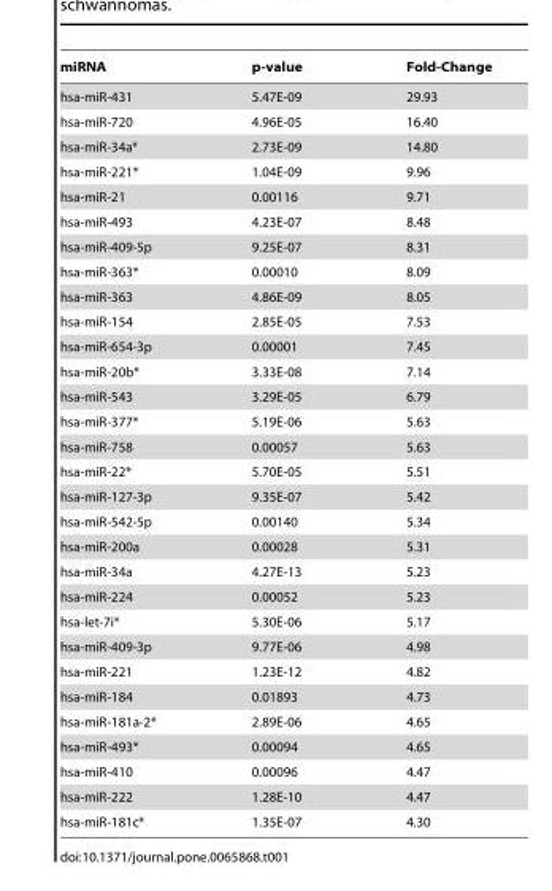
<table><thead><tr><td>miRNA</td><td>p-value</td><td>Fold-Change</td></tr></thead><tbody><tr><td>hsa-miR-431</td><td>5.47E-09</td><td>29.93</td></tr><tr><td>hsa-miR-720</td><td>4.96E-05</td><td>16.40</td></tr><tr><td>hsa-miR-34a*</td><td>2.73E-09</td><td>14.80</td></tr><tr><td>hsa-miR-221*</td><td>1.04E-09</td><td>9.96</td></tr><tr><td>hsa-miR-21</td><td>0.00116</td><td>9.71</td></tr><tr><td>hsa-miR-493</td><td>4.23E-07</td><td>8.48</td></tr><tr><td>hsa-miR-409-5p</td><td>9.25E-07</td><td>8.31</td></tr><tr><td>hsa-miR-363*</td><td>0.00010</td><td>8.09</td></tr><tr><td>hsa-miR-363</td><td>4.86E-09</td><td>8.05</td></tr><tr><td>hsa-miR-154</td><td>2.85E-05</td><td>7.53</td></tr><tr><td>hsa-miR-654-3p</td><td>0.00001</td><td>7.45</td></tr><tr><td>hsa-miR-20b*</td><td>3.33E-08</td><td>7.14</td></tr><tr><td>hsa-miR-543</td><td>3.29E-05</td><td>6.79</td></tr><tr><td>hsa-miR-377*</td><td>5.19E-06</td><td>5.63</td></tr><tr><td>hsa-miR-758</td><td>0.00057</td><td>5.63</td></tr><tr><td>hsa-miR-22*</td><td>5.70E-05</td><td>5.51</td></tr><tr><td>hsa-miR-127-3p</td><td>9.35E-07</td><td>5.42</td></tr><tr><td>hsa-miR-542-5p</td><td>0.00140</td><td>5.34</td></tr><tr><td>hsa-miR-200a</td><td>0.00028</td><td>5.31</td></tr><tr><td>hsa-miR-34a</td><td>4.27E-13</td><td>5.23</td></tr><tr><td>hsa-miR-224</td><td>0.00052</td><td>5.23</td></tr><tr><td>hsa-let-7i*</td><td>5.30E-06</td><td>5.17</td></tr><tr><td>hsa-miR-409-3p</td><td>9.77E-06</td><td>4.98</td></tr><tr><td>hsa-miR-221</td><td>1.23E-12</td><td>4.82</td></tr><tr><td>hsa-miR-184</td><td>0.01893</td><td>4.73</td></tr><tr><td>hsa-miR-181a-2*</td><td>2.89E-06</td><td>4.65</td></tr><tr><td>hsa-miR-493*</td><td>0.00094</td><td>4.65</td></tr><tr><td>hsa-miR-410</td><td>0.00096</td><td>4.47</td></tr><tr><td>hsa-miR-222</td><td>1.28E-10</td><td>4.47</td></tr><tr><td>hsa-miR-181c*</td><td>1.35E-07</td><td>4.30</td></tr></tbody></table>